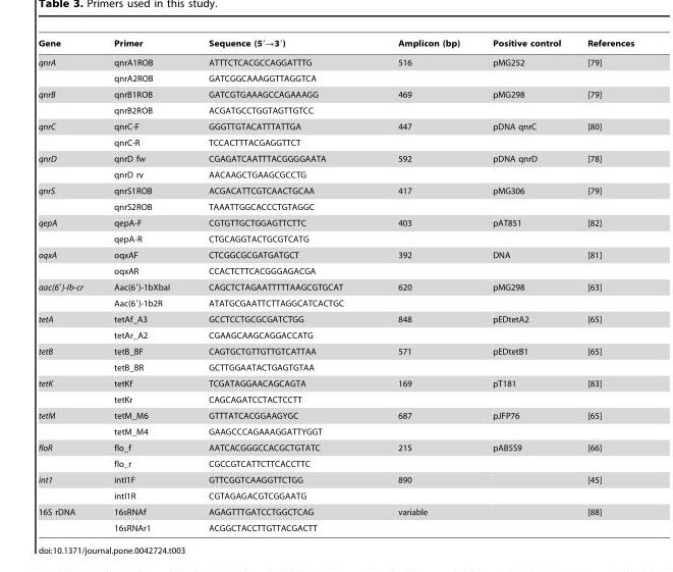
<table><thead><tr><td>Gene</td><td>Primer</td><td>Sequence (5′→3′)</td><td>Amplicon (bp)</td><td>Positive control</td><td>References</td></tr></thead><tbody><tr><td rowspan="2">qnrA</td><td>qnrA1ROB</td><td>ATTTCTCACGCCAGGATTTG</td><td>516</td><td>pMG252</td><td>[79]</td></tr><tr><td>qnrA2ROB</td><td>GATCGGCAAAGGTTAGGTCA</td><td></td><td></td><td></td></tr><tr><td rowspan="2">qnrB</td><td>qnrB1ROB</td><td>GATCGTGAAAGCCAGAAAGG</td><td>469</td><td>pMG298</td><td>[79]</td></tr><tr><td>qnrB2ROB</td><td>ACGATGCCTGGTAGTTGTCC</td><td></td><td></td><td></td></tr><tr><td rowspan="2">qnrC</td><td>qnrC-F</td><td>GGGTTGTACATTTATTGA</td><td>447</td><td>pDNA qnrC</td><td>[80]</td></tr><tr><td>qnrC-R</td><td>TCCACTTTACGAGGTTCT</td><td></td><td></td><td></td></tr><tr><td rowspan="2">qnrD</td><td>qnrD fw</td><td>CGAGATCAATTTACGGGGAATA</td><td>592</td><td>pDNA qnrD</td><td>[78]</td></tr><tr><td>qnrD rv</td><td>AACAAGCTGAAGCGCCTG</td><td></td><td></td><td></td></tr><tr><td rowspan="2">qnrS</td><td>qnrS1ROB</td><td>ACGACATTCGTCAACTGCAA</td><td>417</td><td>pMG306</td><td>[79]</td></tr><tr><td>qnrS2ROB</td><td>TAAATTGGCACCCTGTAGGC</td><td></td><td></td><td></td></tr><tr><td rowspan="2">qepA</td><td>qepA-F</td><td>CGTGTTGCTGGAGTTCTTC</td><td>403</td><td>pAT851</td><td>[82]</td></tr><tr><td>qepA-R</td><td>CTGCAGGTACTGCGTCATG</td><td></td><td></td><td></td></tr><tr><td rowspan="2">oqxA</td><td>oqxAF</td><td>CTCGGCGCGATGATGCT</td><td>392</td><td>DNA</td><td>[81]</td></tr><tr><td>oqxAR</td><td>CCACTCTTCACGGGAGACGA</td><td></td><td></td><td></td></tr><tr><td rowspan="2">aac(6′)-Ib-cr</td><td>Aac(6′)-1bXbaI</td><td>CAGCTCTAGAATTTTTAAGCGTGCAT</td><td>620</td><td>pMG298</td><td>[63]</td></tr><tr><td>Aac(6′)-1b2R</td><td>ATATGCGAATTCTTAGGCATCACTGC</td><td></td><td></td><td></td></tr><tr><td rowspan="2">tetA</td><td>tetAf_A3</td><td>GCCTCCTGCGCGATCTGG</td><td>848</td><td>pEDtetA2</td><td>[65]</td></tr><tr><td>tetAr_A2</td><td>CGAAGCAAGCAGGACCATG</td><td></td><td></td><td></td></tr><tr><td rowspan="2">tetB</td><td>tetB_BF</td><td>CAGTGCTGTTGTTGTCATTAA</td><td>571</td><td>pEDtetB1</td><td>[65]</td></tr><tr><td>tetB_BR</td><td>GCTTGGAATACTGAGTGTAA</td><td></td><td></td><td></td></tr><tr><td rowspan="2">tetK</td><td>tetKf</td><td>TCGATAGGAACAGCAGTA</td><td>169</td><td>pT181</td><td>[83]</td></tr><tr><td>tetKr</td><td>CAGCAGATCCTACTCCTT</td><td></td><td></td><td></td></tr><tr><td rowspan="2">tetM</td><td>tetM_M6</td><td>GTTTATCACGGAAGYGC</td><td>687</td><td>pJFP76</td><td>[65]</td></tr><tr><td>tetM_M4</td><td>GAAGCCCAGAAAGGATTYGGT</td><td></td><td></td><td></td></tr><tr><td rowspan="2">floR</td><td>flo_f</td><td>AATCACGGGCCACGCTGTATC</td><td>215</td><td>pAB5S9</td><td>[66]</td></tr><tr><td>flo_r</td><td>CGCCGTCATTCTTCACCTTC</td><td></td><td></td><td></td></tr><tr><td rowspan="2">int1</td><td>intI1F</td><td>GTTCGGTCAAGGTTCTGG</td><td>890</td><td></td><td>[45]</td></tr><tr><td>intI1R</td><td>CGTAGAGACGTCGGAATG</td><td></td><td></td><td></td></tr><tr><td rowspan="2">16S rDNA</td><td>16sRNAf</td><td>AGAGTTTGATCCTGGCTCAG</td><td>variable</td><td></td><td>[88]</td></tr><tr><td>16sRNAr1</td><td>ACGGCTACCTTGTTACGACTT</td><td></td><td></td><td></td></tr></tbody></table>